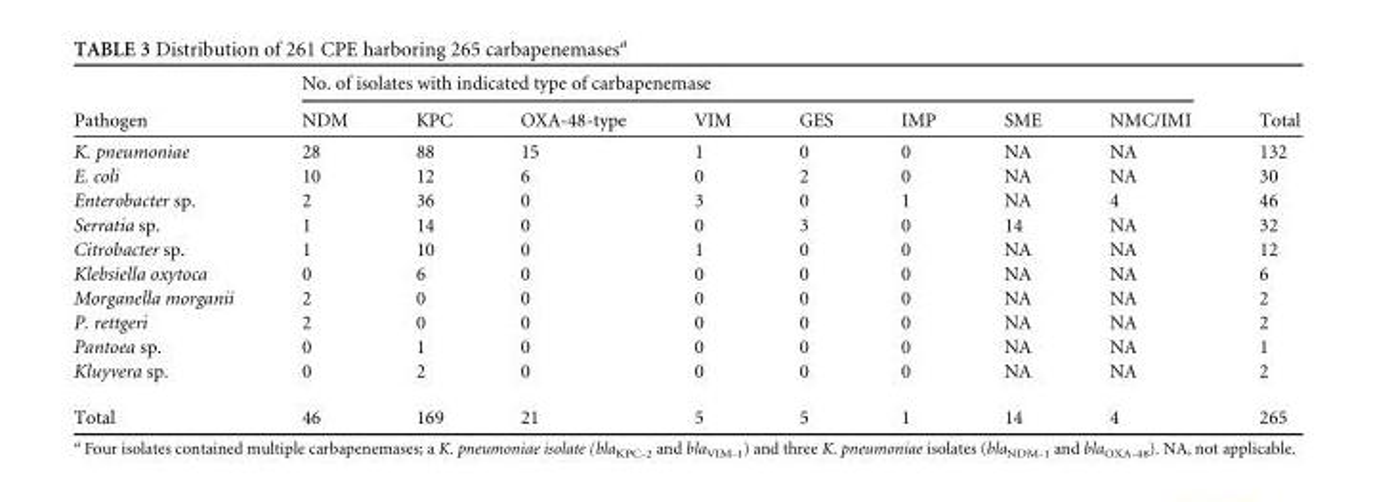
<table><thead><tr><td rowspan="2">Pathogen</td><td colspan="8">No. of isolates with indicated type of carbapenemase</td><td rowspan="2">Total</td></tr><tr><td>NDM</td><td>KPC</td><td>OXA-48-type</td><td>VIM</td><td>GES</td><td>IMP</td><td>SME</td><td>NMC/IMI</td></tr></thead><tbody><tr><td>K. pneumoniae</td><td>28</td><td>88</td><td>15</td><td>1</td><td>0</td><td>0</td><td>NA</td><td>NA</td><td>132</td></tr><tr><td>E. coli</td><td>10</td><td>12</td><td>6</td><td>0</td><td>2</td><td>0</td><td>NA</td><td>NA</td><td>30</td></tr><tr><td>Enterobacter sp.</td><td>2</td><td>36</td><td>0</td><td>3</td><td>0</td><td>1</td><td>NA</td><td>4</td><td>46</td></tr><tr><td>Serratia sp.</td><td>1</td><td>14</td><td>0</td><td>0</td><td>3</td><td>0</td><td>14</td><td>NA</td><td>32</td></tr><tr><td>Citrobacter sp.</td><td>1</td><td>10</td><td>0</td><td>1</td><td>0</td><td>0</td><td>NA</td><td>NA</td><td>12</td></tr><tr><td>Klebsiella oxytoca</td><td>0</td><td>6</td><td>0</td><td>0</td><td>0</td><td>0</td><td>NA</td><td>NA</td><td>6</td></tr><tr><td>Morganella morganii</td><td>2</td><td>0</td><td>0</td><td>0</td><td>0</td><td>0</td><td>NA</td><td>NA</td><td>2</td></tr><tr><td>P. rettgeri</td><td>2</td><td>0</td><td>0</td><td>0</td><td>0</td><td>0</td><td>NA</td><td>NA</td><td>2</td></tr><tr><td>Pantoea sp.</td><td>0</td><td>1</td><td>0</td><td>0</td><td>0</td><td>0</td><td>NA</td><td>NA</td><td>1</td></tr><tr><td>Kluyvera sp.</td><td>0</td><td>2</td><td>0</td><td>0</td><td>0</td><td>0</td><td>NA</td><td>NA</td><td>2</td></tr><tr><td>Total</td><td>46</td><td>169</td><td>21</td><td>5</td><td>5</td><td>1</td><td>14</td><td>4</td><td>265</td></tr></tbody></table>